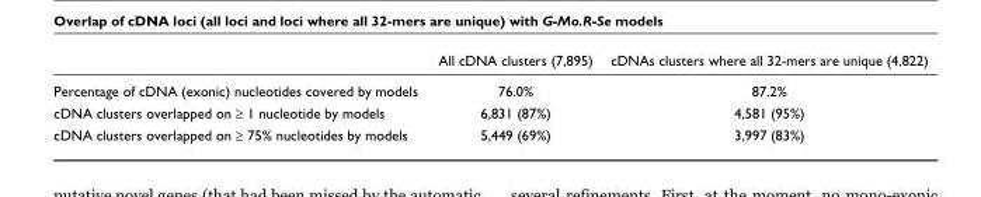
<table><thead><tr><td></td><td>All cDNA clusters (7,895)</td><td>cDNAs clusters where all 32-mers are unique (4,822)</td></tr></thead><tbody><tr><td>Percentage of cDNA (exonic) nucleotides covered by models</td><td>76.0%</td><td>87.2%</td></tr><tr><td>cDNA clusters overlapped on ≥ 1 nucleotide by models</td><td>6,831 (87%)</td><td>4,581 (95%)</td></tr><tr><td>cDNA clusters overlapped on ≥ 75% nucleotides by models</td><td>5,449 (69%)</td><td>3,997 (83%)</td></tr></tbody></table>